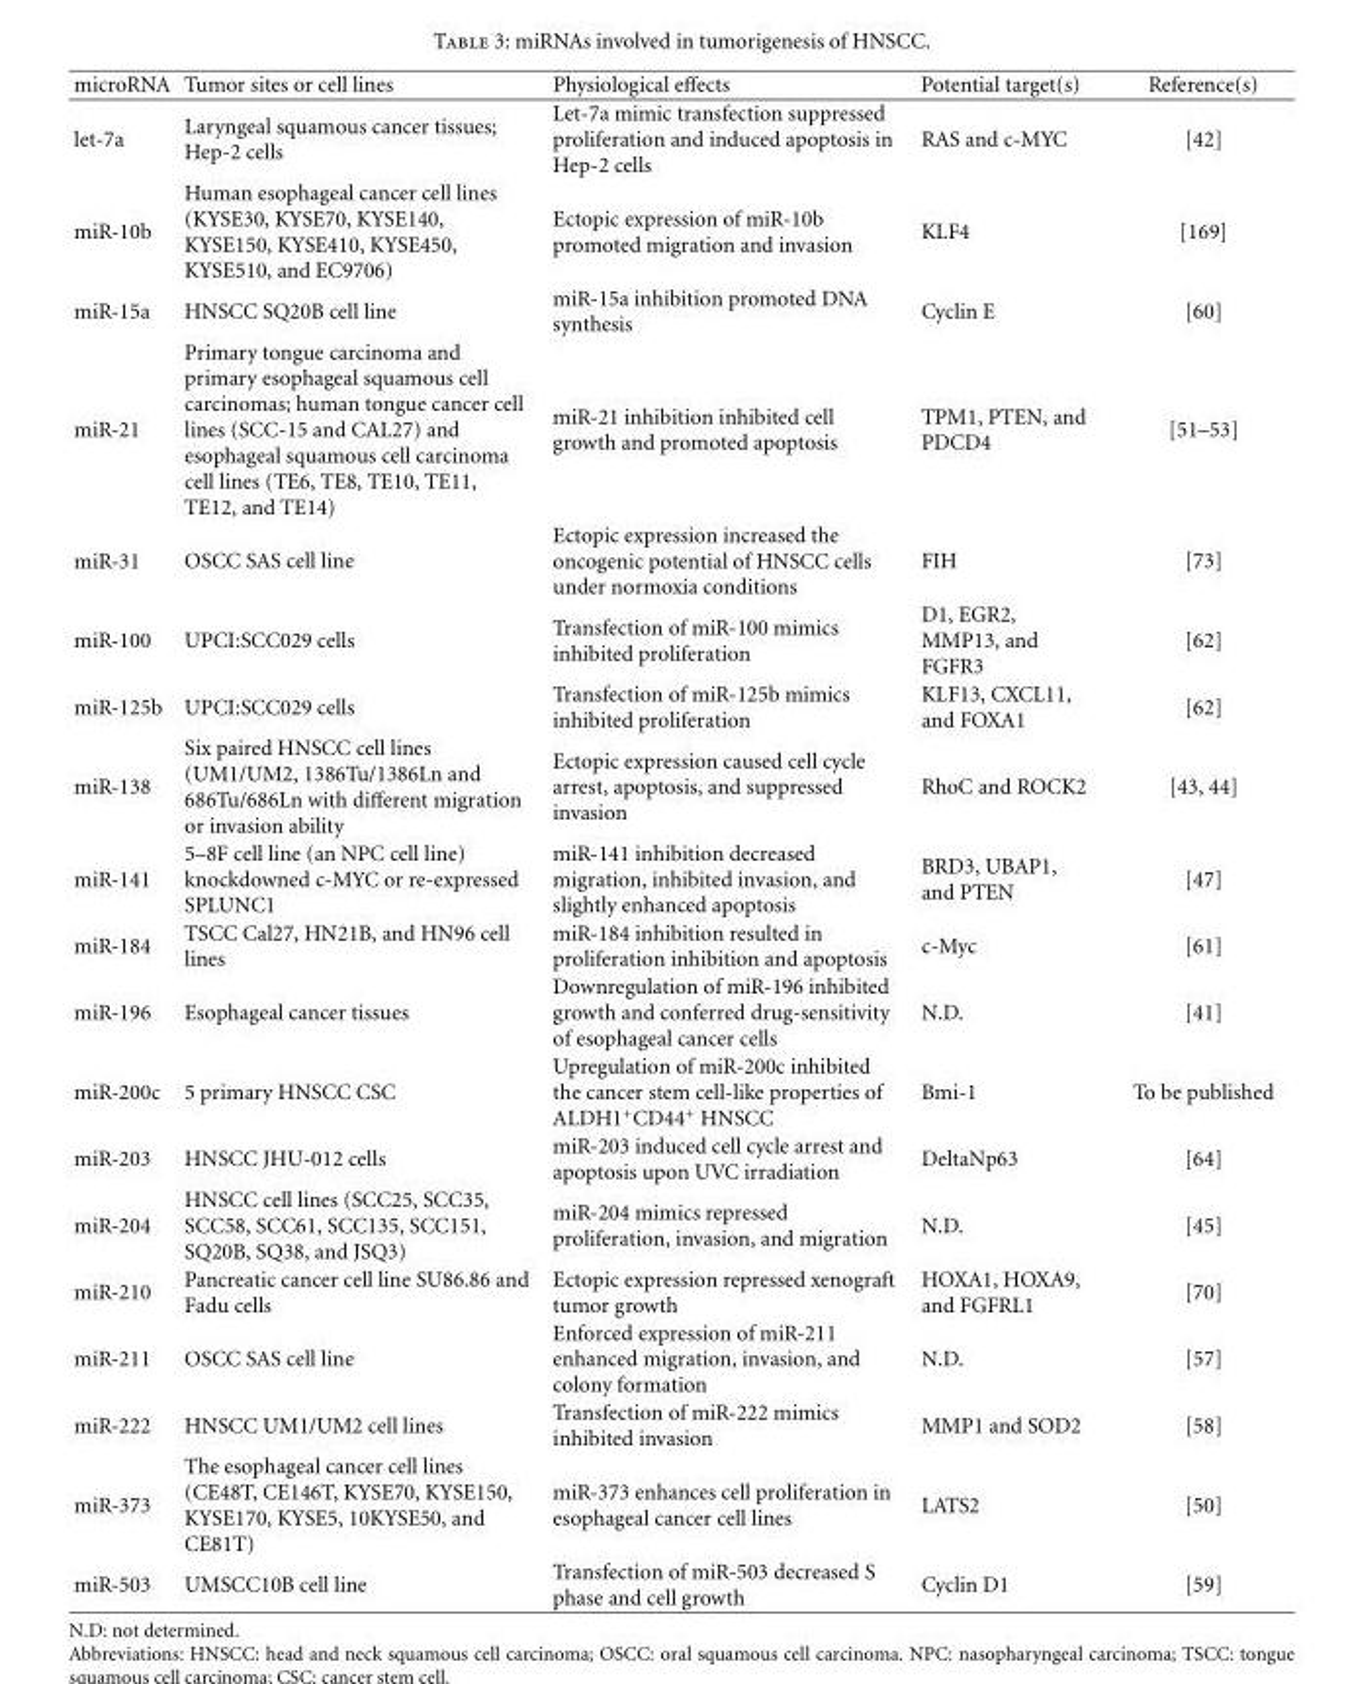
<table><thead><tr><td>microRNA</td><td>Tumor sites or cell lines</td><td>Physiological effects</td><td>Potential target(s)</td><td>Reference(s)</td></tr></thead><tbody><tr><td>let-7a</td><td>Laryngeal squamous cancer tissues; Hep-2 cells</td><td>Let-7a mimic transfection suppressed proliferation and induced apoptosis in Hep-2 cells</td><td>RAS and c-MYC</td><td>[42]</td></tr><tr><td>miR-10b</td><td>Human esophageal cancer cell lines (KYSE30, KYSE70, KYSE140, KYSE150, KYSE410, KYSE450, KYSE510, and EC9706)</td><td>Ectopic expression of miR-10b promoted migration and invasion</td><td>KLF4</td><td>[169]</td></tr><tr><td>miR-15a</td><td>HNSCC SQ20B cell line</td><td>miR-15a inhibition promoted DNA synthesis</td><td>Cyclin E</td><td>[60]</td></tr><tr><td>miR-21</td><td>Primary tongue carcinoma and primary esophageal squamous cell carcinomas; human tongue cancer cell lines (SCC-15 and CAL27) and esophageal squamous cell carcinoma cell lines (TE6, TE8, TE10, TE11, TE12, and TE14)</td><td>miR-21 inhibition inhibited cell growth and promoted apoptosis</td><td>TPM1, PTEN, and PDCD4</td><td>[51–53]</td></tr><tr><td>miR-31</td><td>OSCC SAS cell line</td><td>Ectopic expression increased the oncogenic potential of HNSCC cells under normoxia conditions</td><td>FIH</td><td>[73]</td></tr><tr><td>miR-100</td><td>UPCI:SCC029 cells</td><td>Transfection of miR-100 mimics inhibited proliferation</td><td>D1, EGR2, MMP13, and FGFR3</td><td>[62]</td></tr><tr><td>miR-125b</td><td>UPCI:SCC029 cells</td><td>Transfection of miR-125b mimics inhibited proliferation</td><td>KLF13, CXCL11, and FOXA1</td><td>[62]</td></tr><tr><td>miR-138</td><td>Six paired HNSCC cell lines (UM1/UM2, 1386Tu/1386Ln and 686Tu/686Ln with different migration or invasion ability</td><td>Ectopic expression caused cell cycle arrest, apoptosis, and suppressed invasion</td><td>RhoC and ROCK2</td><td>[43, 44]</td></tr><tr><td>miR-141</td><td>5–8F cell line (an NPC cell line) knockdowned c-MYC or re-expressed SPLUNC1</td><td>miR-141 inhibition decreased migration, inhibited invasion, and slightly enhanced apoptosis</td><td>BRD3, UBAP1, and PTEN</td><td>[47]</td></tr><tr><td>miR-184</td><td>TSCC Cal27, HN21B, and HN96 cell lines</td><td>miR-184 inhibition resulted in proliferation inhibition and apoptosis</td><td>c-Myc</td><td>[61]</td></tr><tr><td>miR-196</td><td>Esophageal cancer tissues</td><td>Downregulation of miR-196 inhibited growth and conferred drug-sensitivity of esophageal cancer cells</td><td>N.D.</td><td>[41]</td></tr><tr><td>miR-200c</td><td>5 primary HNSCC CSC</td><td>Upregulation of miR-200c inhibited the cancer stem cell-like properties of ALDH1<sup>+</sup>CD44<sup>+</sup> HNSCC</td><td>Bmi-1</td><td>To be published</td></tr><tr><td>miR-203</td><td>HNSCC JHU-012 cells</td><td>miR-203 induced cell cycle arrest and apoptosis upon UVC irradiation</td><td>DeltaNp63</td><td>[64]</td></tr><tr><td>miR-204</td><td>HNSCC cell lines (SCC25, SCC35, SCC58, SCC61, SCC135, SCC151, SQ20B, SQ38, and JSQ3)</td><td>miR-204 mimics repressed proliferation, invasion, and migration</td><td>N.D.</td><td>[45]</td></tr><tr><td>miR-210</td><td>Pancreatic cancer cell line SU86.86 and Fadu cells</td><td>Ectopic expression repressed xenograft tumor growth</td><td>HOXA1, HOXA9, and FGFRL1</td><td>[70]</td></tr><tr><td>miR-211</td><td>OSCC SAS cell line</td><td>Enforced expression of miR-211 enhanced migration, invasion, and colony formation</td><td>N.D.</td><td>[57]</td></tr><tr><td>miR-222</td><td>HNSCC UM1/UM2 cell lines</td><td>Transfection of miR-222 mimics inhibited invasion</td><td>MMP1 and SOD2</td><td>[58]</td></tr><tr><td>miR-373</td><td>The esophageal cancer cell lines (CE48T, CE146T, KYSE70, KYSE150, KYSE170, KYSE5, 10KYSE50, and CE81T)</td><td>miR-373 enhances cell proliferation in esophageal cancer cell lines</td><td>LATS2</td><td>[50]</td></tr><tr><td>miR-503</td><td>UMSCC10B cell line</td><td>Transfection of miR-503 decreased S phase and cell growth</td><td>Cyclin D1</td><td>[59]</td></tr></tbody></table>